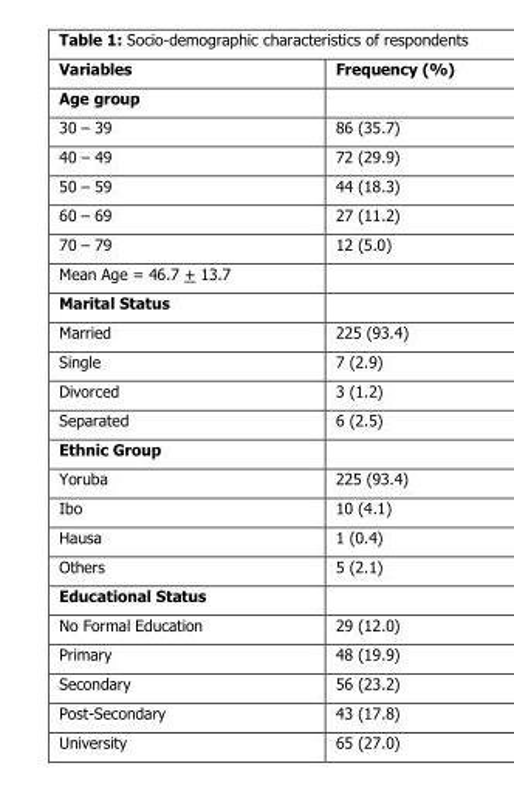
<table><thead><tr><td>Variables</td><td>Frequency (%)</td></tr></thead><tbody><tr><td colspan="2">Age group</td></tr><tr><td>30 – 39</td><td>86 (35.7)</td></tr><tr><td>40 – 49</td><td>72 (29.9)</td></tr><tr><td>50 – 59</td><td>44 (18.3)</td></tr><tr><td>60 – 69</td><td>27 (11.2)</td></tr><tr><td>70 – 79</td><td>12 (5.0)</td></tr><tr><td colspan="2">Mean Age = 46.7 + 13.7</td></tr><tr><td colspan="2">Marital Status</td></tr><tr><td>Married</td><td>225 (93.4)</td></tr><tr><td>Single</td><td>7 (2.9)</td></tr><tr><td>Divorced</td><td>3 (1.2)</td></tr><tr><td>Separated</td><td>6 (2.5)</td></tr><tr><td colspan="2">Ethnic Group</td></tr><tr><td>Yoruba</td><td>225 (93.4)</td></tr><tr><td>Ibo</td><td>10 (4.1)</td></tr><tr><td>Hausa</td><td>1 (0.4)</td></tr><tr><td>Others</td><td>5 (2.1)</td></tr><tr><td colspan="2">Educational Status</td></tr><tr><td>No Formal Education</td><td>29 (12.0)</td></tr><tr><td>Primary</td><td>48 (19.9)</td></tr><tr><td>Secondary</td><td>56 (23.2)</td></tr><tr><td>Post-Secondary</td><td>43 (17.8)</td></tr><tr><td>University</td><td>65 (27.0)</td></tr></tbody></table>